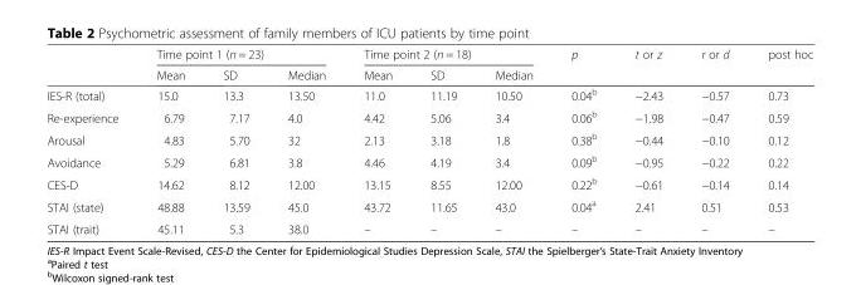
<table><thead><tr><td rowspan="2"></td><td colspan="3">Time point 1 (n = 23)</td><td colspan="3">Time point 2 (n = 18)</td><td rowspan="2">p</td><td rowspan="2">t or z</td><td rowspan="2">r or d</td><td rowspan="2">post hoc</td></tr><tr><td>Mean</td><td>SD</td><td>Median</td><td>Mean</td><td>SD</td><td>Median</td></tr></thead><tbody><tr><td>IES-R (total)</td><td>15.0</td><td>13.3</td><td>13.50</td><td>11.0</td><td>11.19</td><td>10.50</td><td>0.04<sup>b</sup></td><td>−2.43</td><td>−0.57</td><td>0.73</td></tr><tr><td>Re-experience</td><td>6.79</td><td>7.17</td><td>4.0</td><td>4.42</td><td>5.06</td><td>3.4</td><td>0.06<sup>b</sup></td><td>−1.98</td><td>−0.47</td><td>0.59</td></tr><tr><td>Arousal</td><td>4.83</td><td>5.70</td><td>32</td><td>2.13</td><td>3.18</td><td>1.8</td><td>0.38<sup>b</sup></td><td>−0.44</td><td>−0.10</td><td>0.12</td></tr><tr><td>Avoidance</td><td>5.29</td><td>6.81</td><td>3.8</td><td>4.46</td><td>4.19</td><td>3.4</td><td>0.09<sup>b</sup></td><td>−0.95</td><td>−0.22</td><td>0.22</td></tr><tr><td>CES-D</td><td>14.62</td><td>8.12</td><td>12.00</td><td>13.15</td><td>8.55</td><td>12.00</td><td>0.22<sup>b</sup></td><td>−0.61</td><td>−0.14</td><td>0.14</td></tr><tr><td>STAI (state)</td><td>48.88</td><td>13.59</td><td>45.0</td><td>43.72</td><td>11.65</td><td>43.0</td><td>0.04<sup>a</sup></td><td>2.41</td><td>0.51</td><td>0.53</td></tr><tr><td>STAI (trait)</td><td>45.11</td><td>5.3</td><td>38.0</td><td>–</td><td>–</td><td>–</td><td>–</td><td>–</td><td>–</td><td>–</td></tr></tbody></table>